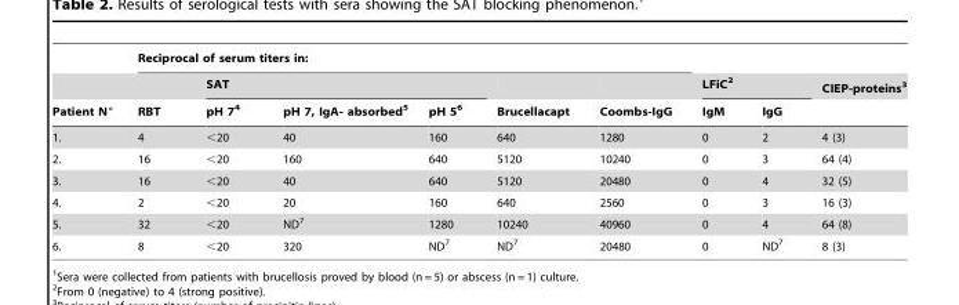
<table><thead><tr><td rowspan="3">Patient N°</td><td colspan="6">Reciprocal of serum titers in:</td><td></td><td></td><td rowspan="3">CIEP-proteins<sup>3</sup></td></tr><tr><td rowspan="2">RBT</td><td colspan="3">SAT</td><td rowspan="2">Brucellacapt</td><td rowspan="2">Coombs-IgG</td><td colspan="2">LFiC<sup>2</sup></td></tr><tr><td>pH 7<sup>4</sup></td><td>pH 7, IgA- absorbed<sup>5</sup></td><td>pH 5<sup>6</sup></td><td>IgM</td><td>IgG</td></tr></thead><tbody><tr><td>1.</td><td>4</td><td>&lt;20</td><td>40</td><td>160</td><td>640</td><td>1280</td><td>0</td><td>2</td><td>4 (3)</td></tr><tr><td>2.</td><td>16</td><td>&lt;20</td><td>160</td><td>640</td><td>5120</td><td>10240</td><td>0</td><td>3</td><td>64 (4)</td></tr><tr><td>3.</td><td>16</td><td>&lt;20</td><td>40</td><td>640</td><td>5120</td><td>20480</td><td>0</td><td>4</td><td>32 (5)</td></tr><tr><td>4.</td><td>2</td><td>&lt;20</td><td>20</td><td>160</td><td>640</td><td>2560</td><td>0</td><td>3</td><td>16 (3)</td></tr><tr><td>5.</td><td>32</td><td>&lt;20</td><td>ND<sup>7</sup></td><td>1280</td><td>10240</td><td>40960</td><td>0</td><td>4</td><td>64 (8)</td></tr><tr><td>6.</td><td>8</td><td>&lt;20</td><td>320</td><td>ND<sup>7</sup></td><td>ND<sup>7</sup></td><td>20480</td><td>0</td><td>ND<sup>7</sup></td><td>8 (3)</td></tr></tbody></table>